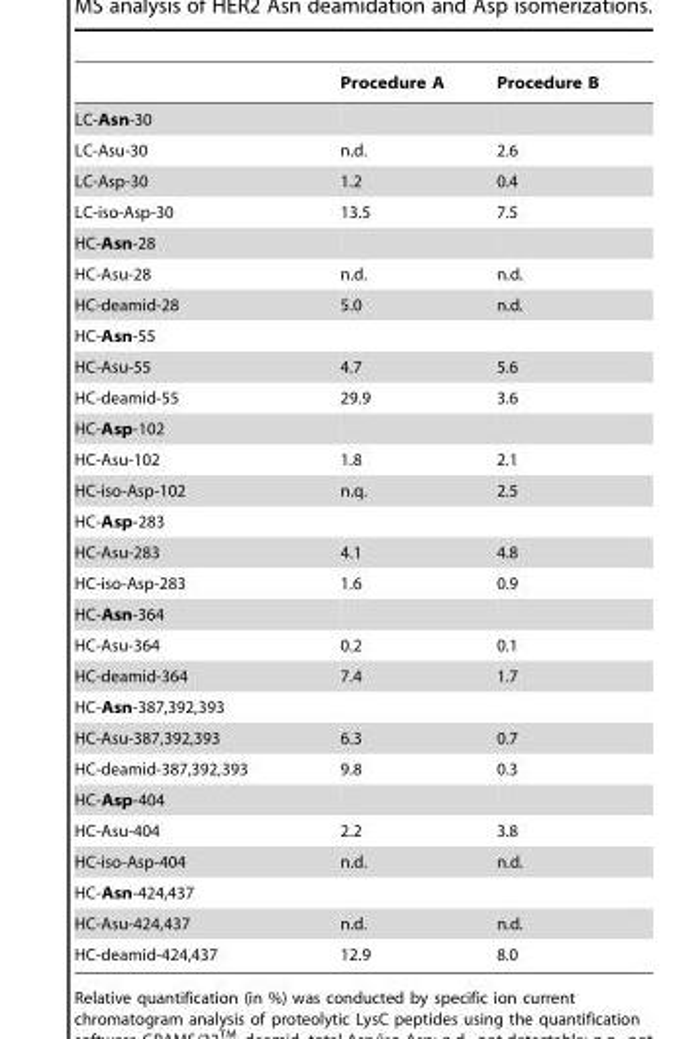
<table><thead><tr><td></td><td>Procedure A</td><td>Procedure B</td></tr></thead><tbody><tr><td colspan="3">LC-Asn-30</td></tr><tr><td>LC-Asu-30</td><td>n.d.</td><td>2.6</td></tr><tr><td>LC-Asp-30</td><td>1.2</td><td>0.4</td></tr><tr><td>LC-iso-Asp-30</td><td>13.5</td><td>7.5</td></tr><tr><td colspan="3">HC-Asn-28</td></tr><tr><td>HC-Asu-28</td><td>n.d.</td><td>n.d.</td></tr><tr><td>HC-deamid-28</td><td>5.0</td><td>n.d.</td></tr><tr><td colspan="3">HC-Asn-55</td></tr><tr><td>HC-Asu-55</td><td>4.7</td><td>5.6</td></tr><tr><td>HC-deamid-55</td><td>29.9</td><td>3.6</td></tr><tr><td colspan="3">HC-Asp-102</td></tr><tr><td>HC-Asu-102</td><td>1.8</td><td>2.1</td></tr><tr><td>HC-iso-Asp-102</td><td>n.q.</td><td>2.5</td></tr><tr><td colspan="3">HC-Asp-283</td></tr><tr><td>HC-Asu-283</td><td>4.1</td><td>4.8</td></tr><tr><td>HC-iso-Asp-283</td><td>1.6</td><td>0.9</td></tr><tr><td colspan="3">HC-Asn-364</td></tr><tr><td>HC-Asu-364</td><td>0.2</td><td>0.1</td></tr><tr><td>HC-deamid-364</td><td>7.4</td><td>1.7</td></tr><tr><td colspan="3">HC-Asn-387,392,393</td></tr><tr><td>HC-Asu-387,392,393</td><td>6.3</td><td>0.7</td></tr><tr><td>HC-deamid-387,392,393</td><td>9.8</td><td>0.3</td></tr><tr><td colspan="3">HC-Asp-404</td></tr><tr><td>HC-Asu-404</td><td>2.2</td><td>3.8</td></tr><tr><td>HC-iso-Asp-404</td><td>n.d.</td><td>n.d.</td></tr><tr><td colspan="3">HC-Asn-424,437</td></tr><tr><td>HC-Asu-424,437</td><td>n.d.</td><td>n.d.</td></tr><tr><td>HC-deamid-424,437</td><td>12.9</td><td>8.0</td></tr></tbody></table>